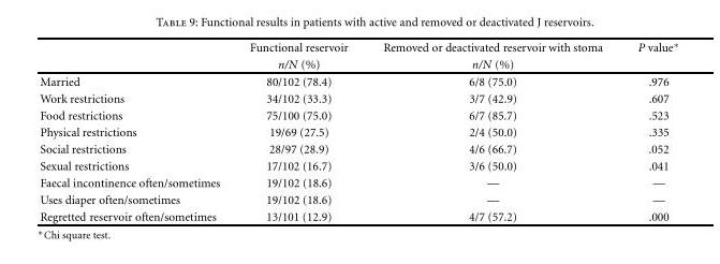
<table><thead><tr><td rowspan="2"></td><td rowspan="2">Functional reservoir n/N (%)</td><td rowspan="2">Removed or deactivated reservoir with stoma n/N (%)</td><td rowspan="2">P value∗</td></tr><tr></tr></thead><tbody><tr><td>Married</td><td>80/102 (78.4)</td><td>6/8 (75.0)</td><td>.976</td></tr><tr><td>Work restrictions</td><td>34/102 (33.3)</td><td>3/7 (42.9)</td><td>.607</td></tr><tr><td>Food restrictions</td><td>75/100 (75.0)</td><td>6/7 (85.7)</td><td>.523</td></tr><tr><td>Physical restrictions</td><td>19/69 (27.5)</td><td>2/4 (50.0)</td><td>.335</td></tr><tr><td>Social restrictions</td><td>28/97 (28.9)</td><td>4/6 (66.7)</td><td>.052</td></tr><tr><td>Sexual restrictions</td><td>17/102 (16.7)</td><td>3/6 (50.0)</td><td>.041</td></tr><tr><td>Faecal incontinence often/sometimes</td><td>19/102 (18.6)</td><td>—</td><td>—</td></tr><tr><td>Uses diaper often/sometimes</td><td>19/102 (18.6)</td><td>—</td><td>—</td></tr><tr><td>Regretted reservoir often/sometimes</td><td>13/101 (12.9)</td><td>4/7 (57.2)</td><td>.000</td></tr></tbody></table>